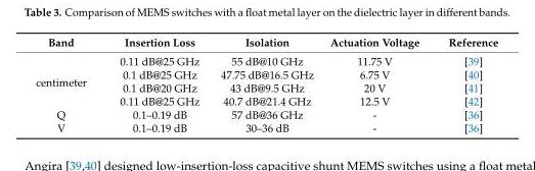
<table><thead><tr><td>Band</td><td>Insertion Loss</td><td>Isolation</td><td>Actuation Voltage</td><td>Reference</td></tr></thead><tbody><tr><td rowspan="4">centimeter</td><td>0.11 dB@25 GHz</td><td>55 dB@10 GHz</td><td>11.75 V</td><td>[39]</td></tr><tr><td>0.1 dB@25 GHz</td><td>47.75 dB@16.5 GHz</td><td>6.75 V</td><td>[40]</td></tr><tr><td>0.1 dB@20 GHz</td><td>43 dB@9.5 GHz</td><td>20 V</td><td>[41]</td></tr><tr><td>0.11 dB@25 GHz</td><td>40.7 dB@21.4 GHz</td><td>12.5 V</td><td>[42]</td></tr><tr><td>Q</td><td>0.1–0.19 dB</td><td>57 dB@36 GHz</td><td>-</td><td>[36]</td></tr><tr><td>V</td><td>0.1–0.19 dB</td><td>30–36 dB</td><td>-</td><td>[36]</td></tr></tbody></table>